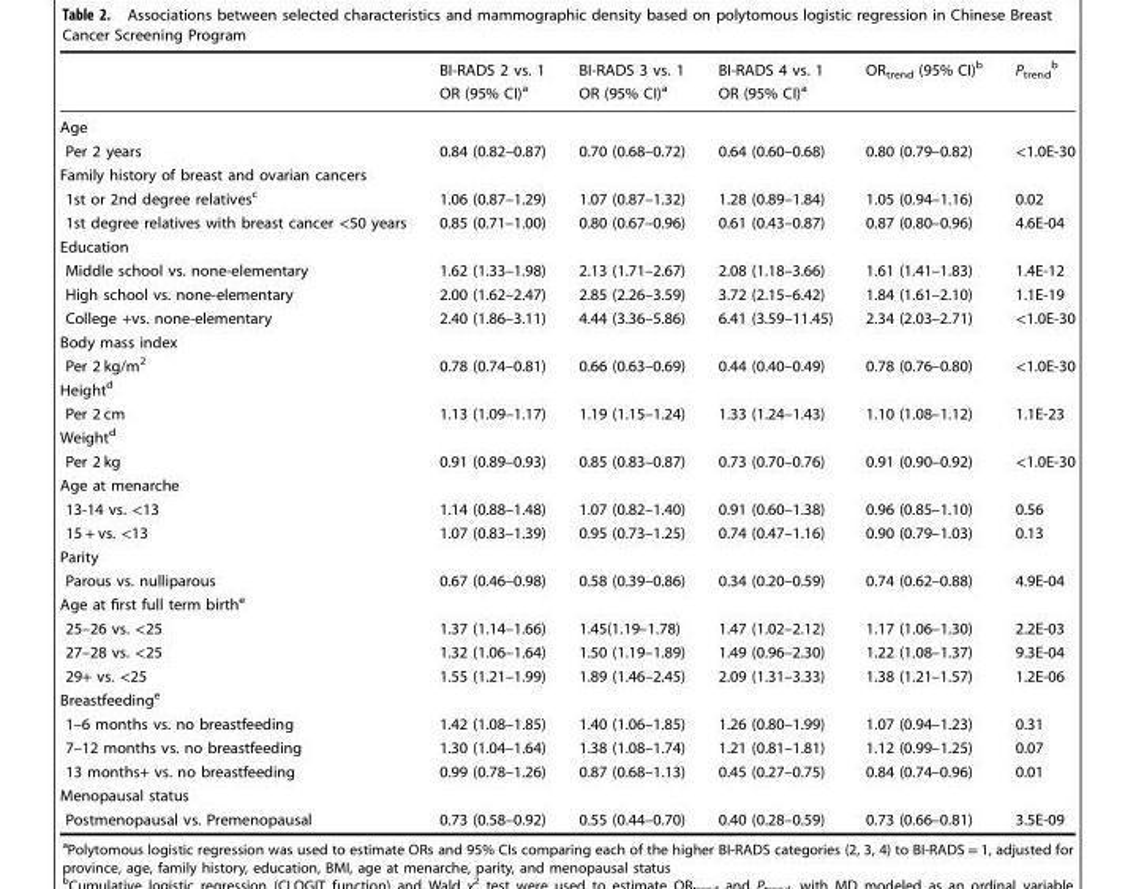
<table><thead><tr><td rowspan="2"></td><td rowspan="2">BI-RADS 2 vs. 1 OR (95% CI)<sup>a</sup></td><td rowspan="2">BI-RADS 3 vs. 1 OR (95% CI)<sup>a</sup></td><td rowspan="2">BI-RADS 4 vs. 1 OR (95% CI)<sup>a</sup></td><td rowspan="2">OR<sub>trend</sub> (95% CI)<sup>b</sup></td><td rowspan="2">P<sub>trend</sub> <sup>b</sup></td></tr><tr></tr></thead><tbody><tr><td colspan="6">Age</td></tr><tr><td>Per 2 years</td><td>0.84 (0.82–0.87)</td><td>0.70 (0.68–0.72)</td><td>0.64 (0.60–0.68)</td><td>0.80 (0.79–0.82)</td><td>&lt;1.0E-30</td></tr><tr><td colspan="6">Family history of breast and ovarian cancers</td></tr><tr><td>1st or 2nd degree relatives<sup>c</sup></td><td>1.06 (0.87–1.29)</td><td>1.07 (0.87–1.32)</td><td>1.28 (0.89–1.84)</td><td>1.05 (0.94–1.16)</td><td>0.02</td></tr><tr><td>1st degree relatives with breast cancer &lt;50 years</td><td>0.85 (0.71–1.00)</td><td>0.80 (0.67–0.96)</td><td>0.61 (0.43–0.87)</td><td>0.87 (0.80–0.96)</td><td>4.6E-04</td></tr><tr><td colspan="6">Education</td></tr><tr><td>Middle school vs. none-elementary</td><td>1.62 (1.33–1.98)</td><td>2.13 (1.71–2.67)</td><td>2.08 (1.18–3.66)</td><td>1.61 (1.41–1.83)</td><td>1.4E-12</td></tr><tr><td>High school vs. none-elementary</td><td>2.00 (1.62–2.47)</td><td>2.85 (2.26–3.59)</td><td>3.72 (2.15–6.42)</td><td>1.84 (1.61–2.10)</td><td>1.1E-19</td></tr><tr><td>College +vs. none-elementary</td><td>2.40 (1.86–3.11)</td><td>4.44 (3.36–5.86)</td><td>6.41 (3.59–11.45)</td><td>2.34 (2.03–2.71)</td><td>&lt;1.0E-30</td></tr><tr><td colspan="6">Body mass index</td></tr><tr><td>Per 2 kg/m<sup>2</sup></td><td>0.78 (0.74–0.81)</td><td>0.66 (0.63–0.69)</td><td>0.44 (0.40–0.49)</td><td>0.78 (0.76–0.80)</td><td>&lt;1.0E-30</td></tr><tr><td colspan="6">Height<sup>d</sup></td></tr><tr><td>Per 2 cm</td><td>1.13 (1.09–1.17)</td><td>1.19 (1.15–1.24)</td><td>1.33 (1.24–1.43)</td><td>1.10 (1.08–1.12)</td><td>1.1E-23</td></tr><tr><td colspan="6">Weight<sup>d</sup></td></tr><tr><td>Per 2 kg</td><td>0.91 (0.89–0.93)</td><td>0.85 (0.83–0.87)</td><td>0.73 (0.70–0.76)</td><td>0.91 (0.90–0.92)</td><td>&lt;1.0E-30</td></tr><tr><td colspan="6">Age at menarche</td></tr><tr><td>13-14 vs. &lt;13</td><td>1.14 (0.88–1.48)</td><td>1.07 (0.82–1.40)</td><td>0.91 (0.60–1.38)</td><td>0.96 (0.85–1.10)</td><td>0.56</td></tr><tr><td>15 + vs. &lt;13</td><td>1.07 (0.83–1.39)</td><td>0.95 (0.73–1.25)</td><td>0.74 (0.47–1.16)</td><td>0.90 (0.79–1.03)</td><td>0.13</td></tr><tr><td colspan="6">Parity</td></tr><tr><td>Parous vs. nulliparous</td><td>0.67 (0.46–0.98)</td><td>0.58 (0.39–0.86)</td><td>0.34 (0.20–0.59)</td><td>0.74 (0.62–0.88)</td><td>4.9E-04</td></tr><tr><td colspan="6">Age at first full term birth<sup>e</sup></td></tr><tr><td>25–26 vs. &lt;25</td><td>1.37 (1.14–1.66)</td><td>1.45(1.19–1.78)</td><td>1.47 (1.02–2.12)</td><td>1.17 (1.06–1.30)</td><td>2.2E-03</td></tr><tr><td>27–28 vs. &lt;25</td><td>1.32 (1.06–1.64)</td><td>1.50 (1.19–1.89)</td><td>1.49 (0.96–2.30)</td><td>1.22 (1.08–1.37)</td><td>9.3E-04</td></tr><tr><td>29+ vs. &lt;25</td><td>1.55 (1.21–1.99)</td><td>1.89 (1.46–2.45)</td><td>2.09 (1.31–3.33)</td><td>1.38 (1.21–1.57)</td><td>1.2E-06</td></tr><tr><td colspan="6">Breastfeeding<sup>e</sup></td></tr><tr><td>1–6 months vs. no breastfeeding</td><td>1.42 (1.08–1.85)</td><td>1.40 (1.06–1.85)</td><td>1.26 (0.80–1.99)</td><td>1.07 (0.94–1.23)</td><td>0.31</td></tr><tr><td>7–12 months vs. no breastfeeding</td><td>1.30 (1.04–1.64)</td><td>1.38 (1.08–1.74)</td><td>1.21 (0.81–1.81)</td><td>1.12 (0.99–1.25)</td><td>0.07</td></tr><tr><td>13 months+ vs. no breastfeeding</td><td>0.99 (0.78–1.26)</td><td>0.87 (0.68–1.13)</td><td>0.45 (0.27–0.75)</td><td>0.84 (0.74–0.96)</td><td>0.01</td></tr><tr><td colspan="6">Menopausal status</td></tr><tr><td>Postmenopausal vs. Premenopausal</td><td>0.73 (0.58–0.92)</td><td>0.55 (0.44–0.70)</td><td>0.40 (0.28–0.59)</td><td>0.73 (0.66–0.81)</td><td>3.5E-09</td></tr></tbody></table>